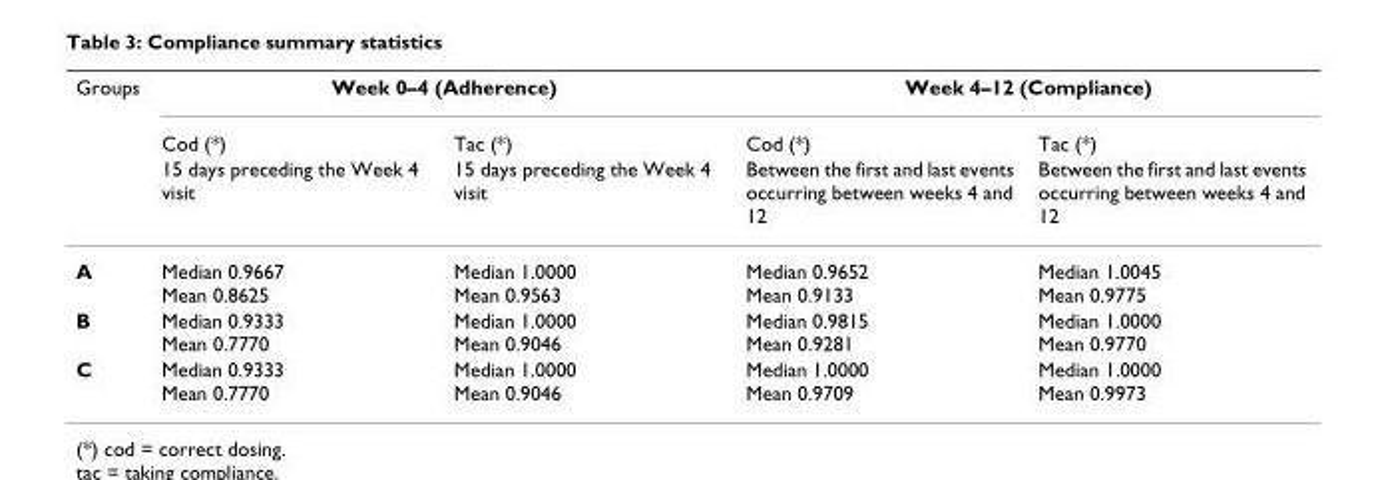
<table><thead><tr><td rowspan="3">Groups</td><td colspan="2">Week 0–4 (Adherence)</td><td colspan="2">Week 4–12 (Compliance)</td></tr><tr><td rowspan="2">Cod (*) 15 days preceding the Week 4 visit</td><td rowspan="2">Tac (*) 15 days preceding the Week 4 visit</td><td rowspan="2">Cod (*) Between the first and last events occurring between weeks 4 and 12</td><td rowspan="2">Tac (*) Between the first and last events occurring between weeks 4 and 12</td></tr><tr></tr></thead><tbody><tr><td>A</td><td>Median 0.9667 Mean 0.8625</td><td>Median 1.0000 Mean 0.9563</td><td>Median 0.9652 Mean 0.9133</td><td>Median 1.0045 Mean 0.9775</td></tr><tr><td>B</td><td>Median 0.9333 Mean 0.7770</td><td>Median 1.0000 Mean 0.9046</td><td>Median 0.9815 Mean 0.9281</td><td>Median 1.0000 Mean 0.9770</td></tr><tr><td>C</td><td>Median 0.9333 Mean 0.7770</td><td>Median 1.0000 Mean 0.9046</td><td>Median 1.0000 Mean 0.9709</td><td>Median 1.0000 Mean 0.9973</td></tr></tbody></table>